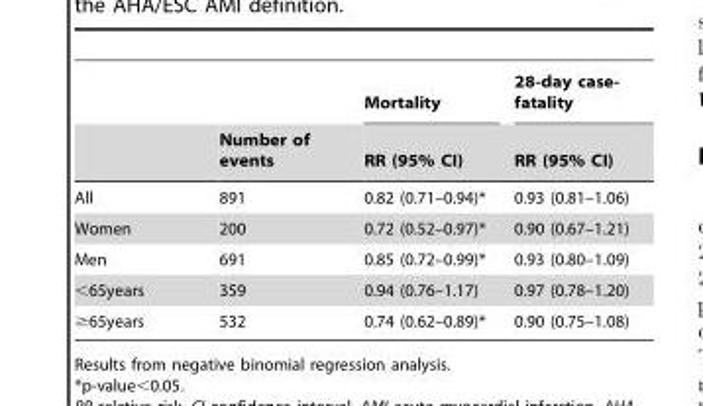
<table><thead><tr><td rowspan="2"></td><td rowspan="2">Number of events</td><td rowspan="2">Mortality RR (95% CI)</td><td rowspan="2">28-day case- fatality RR (95% CI)</td></tr><tr></tr></thead><tbody><tr><td>All</td><td>891</td><td>0.82 (0.71–0.94)*</td><td>0.93 (0.81–1.06)</td></tr><tr><td>Women</td><td>200</td><td>0.72 (0.52–0.97)*</td><td>0.90 (0.67–1.21)</td></tr><tr><td>Men</td><td>691</td><td>0.85 (0.72–0.99)*</td><td>0.93 (0.80–1.09)</td></tr><tr><td>&lt;65years</td><td>359</td><td>0.94 (0.76–1.17)</td><td>0.97 (0.78–1.20)</td></tr><tr><td>≥65years</td><td>532</td><td>0.74 (0.62–0.89)*</td><td>0.90 (0.75–1.08)</td></tr></tbody></table>